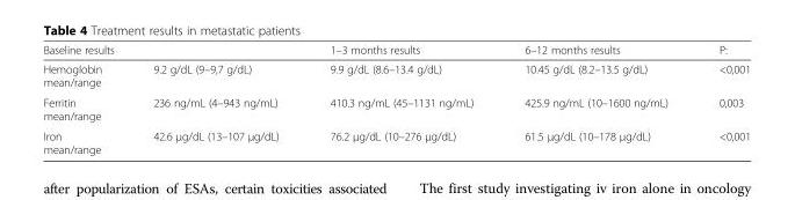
<table><thead><tr><td colspan="2">Baseline results</td><td rowspan="2">1–3 months results 9.9 g/dL (8.6–13.4 g/dL)</td><td rowspan="2">6–12 months results 10.45 g/dL (8.2–13.5 g/dL)</td><td rowspan="2">P: &lt;0,001</td></tr><tr><td>Hemoglobin mean/range</td><td>9.2 g/dL (9–9,7 g/dL)</td></tr></thead><tbody><tr><td>Ferritin mean/range</td><td>236 ng/mL (4–943 ng/mL)</td><td>410.3 ng/mL (45–1131 ng/mL)</td><td>425.9 ng/mL (10–1600 ng/mL)</td><td>0,003</td></tr><tr><td>Iron mean/range</td><td>42.6 μg/dL (13–107 μg/dL)</td><td>76.2 μg/dL (10–276 μg/dL)</td><td>61.5 μg/dL (10–178 μg/dL)</td><td>&lt;0,001</td></tr></tbody></table>